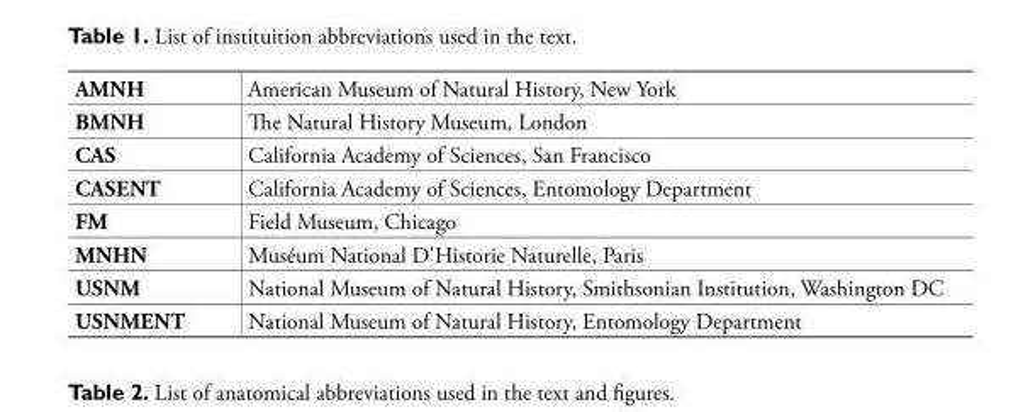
<table><tbody><tr><td>AMNH</td><td>American Museum of Natural History, New York</td></tr><tr><td>BMNH</td><td>The Natural History Museum, London</td></tr><tr><td>CAS</td><td>California Academy of Sciences, San Francisco</td></tr><tr><td>CASENT</td><td>California Academy of Sciences, Entomology Department</td></tr><tr><td>FM</td><td>Field Museum, Chicago</td></tr><tr><td>MNHN</td><td>Muséum National D&#x27;Historie Naturelle, Paris</td></tr><tr><td>USNM</td><td>National Museum of Natural History, Smithsonian Institution, Washington DC</td></tr><tr><td>USNMENT</td><td>National Museum of Natural History, Entomology Department</td></tr></tbody></table>